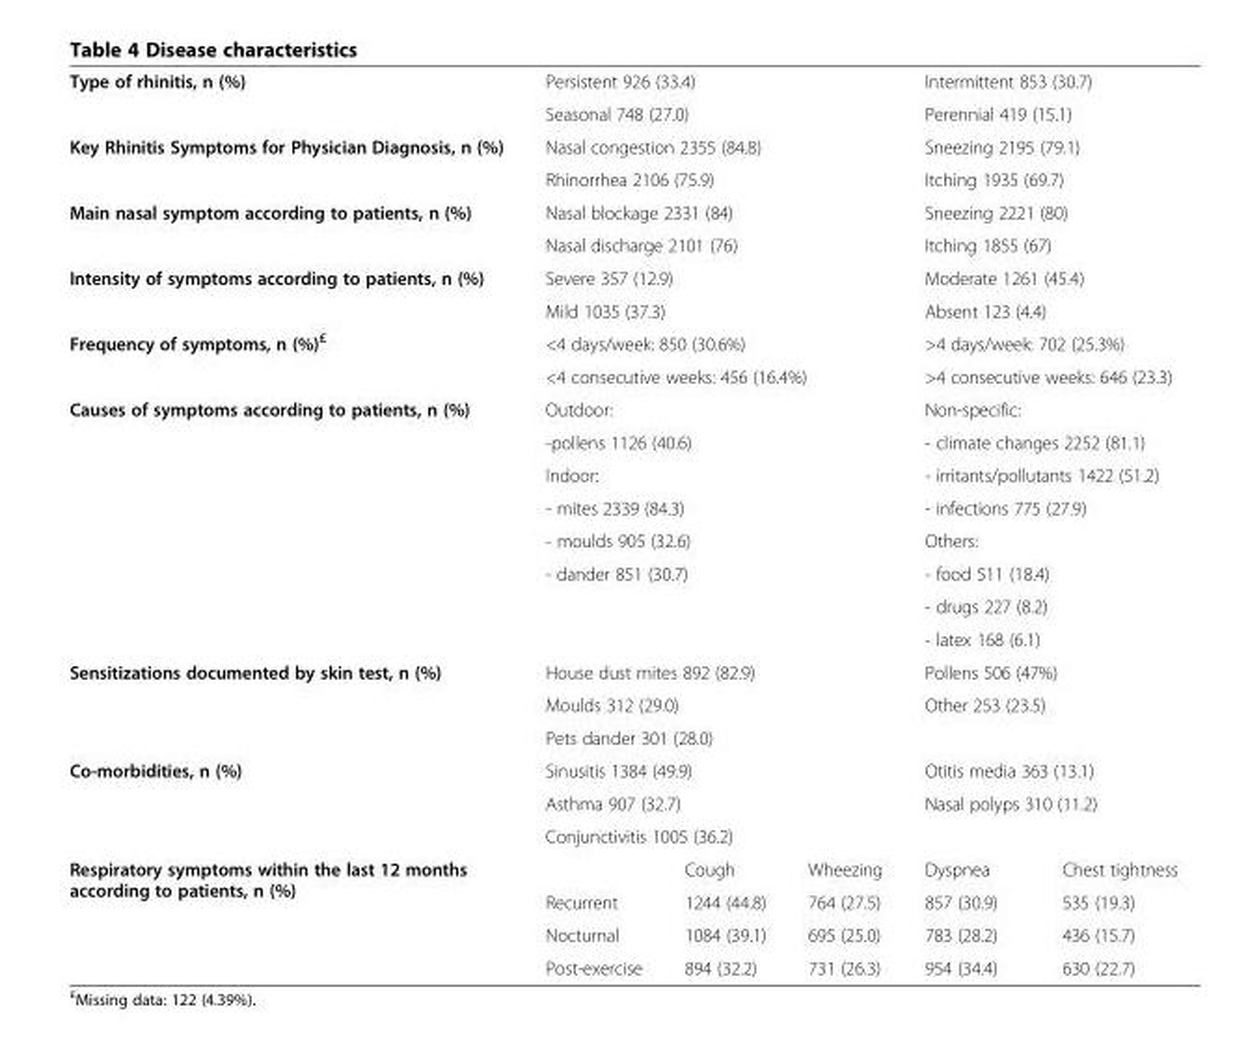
<table><tbody><tr><td rowspan="2">Type of rhinitis, n (%)</td><td colspan="3">Persistent 926 (33.4)</td><td colspan="2">Intermittent 853 (30.7)</td></tr><tr><td colspan="3">Seasonal 748 (27.0)</td><td colspan="2">Perennial 419 (15.1)</td></tr><tr><td rowspan="2">Key Rhinitis Symptoms for Physician Diagnosis, n (%)</td><td colspan="3">Nasal congestion 2355 (84.8)</td><td colspan="2">Sneezing 2195 (79.1)</td></tr><tr><td colspan="3">Rhinorrhea 2106 (75.9)</td><td colspan="2">Itching 1935 (69.7)</td></tr><tr><td rowspan="2">Main nasal symptom according to patients, n (%)</td><td colspan="3">Nasal blockage 2331 (84)</td><td colspan="2">Sneezing 2221 (80)</td></tr><tr><td colspan="3">Nasal discharge 2101 (76)</td><td colspan="2">Itching 1855 (67)</td></tr><tr><td rowspan="2">Intensity of symptoms according to patients, n (%)</td><td colspan="3">Severe 357 (12.9)</td><td colspan="2">Moderate 1261 (45.4)</td></tr><tr><td colspan="3">Mild 1035 (37.3)</td><td colspan="2">Absent 123 (4.4)</td></tr><tr><td rowspan="2">Frequency of symptoms, n (%)<sup>£</sup></td><td colspan="3">&lt;4 days/week: 850 (30.6%)</td><td colspan="2">&gt;4 days/week: 702 (25.3%)</td></tr><tr><td colspan="3">&lt;4 consecutive weeks: 456 (16.4%)</td><td colspan="2">&gt;4 consecutive weeks: 646 (23.3)</td></tr><tr><td rowspan="8">Causes of symptoms according to patients, n (%)</td><td colspan="3">Outdoor:</td><td colspan="2">Non-specific:</td></tr><tr><td colspan="3">-pollens 1126 (40.6)</td><td colspan="2">- climate changes 2252 (81.1)</td></tr><tr><td colspan="3">Indoor:</td><td colspan="2">- irritants/pollutants 1422 (51.2)</td></tr><tr><td colspan="3">- mites 2339 (84.3)</td><td colspan="2">- infections 775 (27.9)</td></tr><tr><td colspan="3">- moulds 905 (32.6)</td><td colspan="2">Others:</td></tr><tr><td rowspan="2" colspan="3">- dander 851 (30.7)</td><td colspan="2">- food 511 (18.4)</td></tr><tr><td colspan="2">- drugs 227 (8.2)</td></tr><tr><td></td><td></td><td></td><td colspan="2">- latex 168 (6.1)</td></tr><tr><td rowspan="3">Sensitizations documented by skin test, n (%)</td><td colspan="3">House dust mites 892 (82.9)</td><td colspan="2">Pollens 506 (47%)</td></tr><tr><td colspan="3">Moulds 312 (29.0)</td><td rowspan="2" colspan="2">Other 253 (23.5)</td></tr><tr><td colspan="3">Pets dander 301 (28.0)</td></tr><tr><td rowspan="3">Co-morbidities, n (%)</td><td colspan="3">Sinusitis 1384 (49.9)</td><td colspan="2">Otitis media 363 (13.1)</td></tr><tr><td colspan="3">Asthma 907 (32.7)</td><td colspan="2">Nasal polyps 310 (11.2)</td></tr><tr><td colspan="3">Conjunctivitis 1005 (36.2)</td><td></td><td></td></tr><tr><td rowspan="4">Respiratory symptoms within the last 12 months according to patients, n (%)</td><td></td><td>Cough</td><td>Wheezing</td><td>Dyspnea</td><td>Chest tightness</td></tr><tr><td>Recurrent</td><td>1244 (44.8)</td><td>764 (27.5)</td><td>857 (30.9)</td><td>535 (19.3)</td></tr><tr><td>Nocturnal</td><td>1084 (39.1)</td><td>695 (25.0)</td><td>783 (28.2)</td><td>436 (15.7)</td></tr><tr><td>Post-exercise</td><td>894 (32.2)</td><td>731 (26.3)</td><td>954 (34.4)</td><td>630 (22.7)</td></tr></tbody></table>